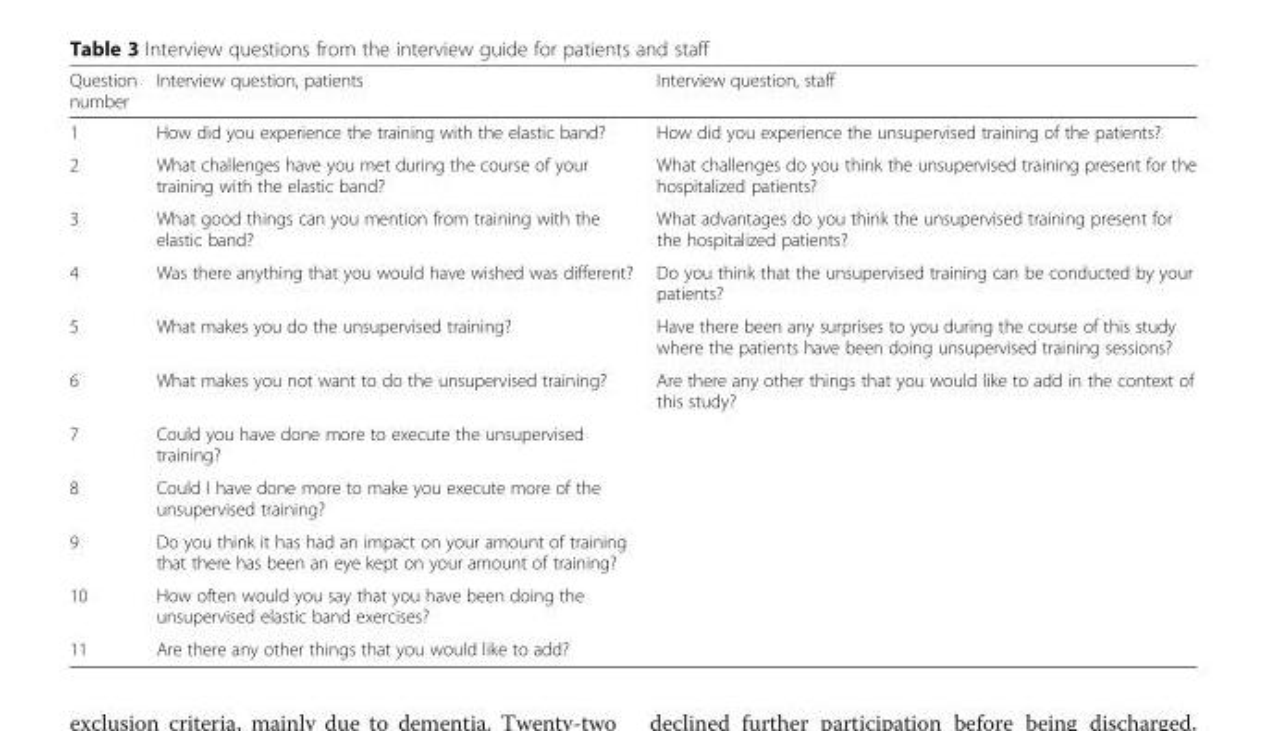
<table><thead><tr><td>Question number</td><td>Interview question, patients</td><td>Interview question, staff</td></tr></thead><tbody><tr><td>1</td><td>How did you experience the training with the elastic band?</td><td>How did you experience the unsupervised training of the patients?</td></tr><tr><td>2</td><td>What challenges have you met during the course of your training with the elastic band?</td><td>What challenges do you think the unsupervised training present for the hospitalized patients?</td></tr><tr><td>3</td><td>What good things can you mention from training with the elastic band?</td><td>What advantages do you think the unsupervised training present for the hospitalized patients?</td></tr><tr><td>4</td><td>Was there anything that you would have wished was different?</td><td>Do you think that the unsupervised training can be conducted by your patients?</td></tr><tr><td>5</td><td>What makes you do the unsupervised training?</td><td>Have there been any surprises to you during the course of this study where the patients have been doing unsupervised training sessions?</td></tr><tr><td>6</td><td>What makes you not want to do the unsupervised training?</td><td>Are there any other things that you would like to add in the context of this study?</td></tr><tr><td>7</td><td>Could you have done more to execute the unsupervised training?</td><td></td></tr><tr><td>8</td><td>Could I have done more to make you execute more of the unsupervised training?</td><td></td></tr><tr><td>9</td><td>Do you think it has had an impact on your amount of training that there has been an eye kept on your amount of training?</td><td></td></tr><tr><td>10</td><td>How often would you say that you have been doing the unsupervised elastic band exercises?</td><td></td></tr><tr><td>11</td><td>Are there any other things that you would like to add?</td><td></td></tr></tbody></table>